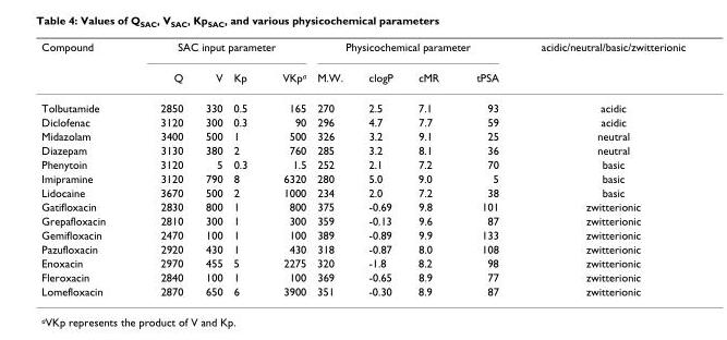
<table><thead><tr><td rowspan="2">Compound</td><td colspan="4">SAC input parameter</td><td colspan="4">Physicochemical parameter</td><td rowspan="2">acidic/neutral/basic/zwitterionic</td></tr><tr><td>Q</td><td>V</td><td>Kp</td><td>VKp<sup>a</sup></td><td>M.W.</td><td>clogP</td><td>cMR</td><td>tPSA</td></tr></thead><tbody><tr><td>Tolbutamide</td><td>2850</td><td>330</td><td>0.5</td><td>165</td><td>270</td><td>2.5</td><td>7.1</td><td>93</td><td>acidic</td></tr><tr><td>Diclofenac</td><td>3120</td><td>300</td><td>0.3</td><td>90</td><td>296</td><td>4.7</td><td>7.7</td><td>59</td><td>acidic</td></tr><tr><td>Midazolam</td><td>3400</td><td>500</td><td>1</td><td>500</td><td>326</td><td>3.2</td><td>9.1</td><td>25</td><td>neutral</td></tr><tr><td>Diazepam</td><td>3130</td><td>380</td><td>2</td><td>760</td><td>285</td><td>3.2</td><td>8.1</td><td>36</td><td>neutral</td></tr><tr><td>Phenytoin</td><td>3120</td><td>5</td><td>0.3</td><td>1.5</td><td>252</td><td>2.1</td><td>7.2</td><td>70</td><td>basic</td></tr><tr><td>Imipramine</td><td>3120</td><td>790</td><td>8</td><td>6320</td><td>280</td><td>5.0</td><td>9.0</td><td>5</td><td>basic</td></tr><tr><td>Lidocaine</td><td>3670</td><td>500</td><td>2</td><td>1000</td><td>234</td><td>2.0</td><td>7.2</td><td>38</td><td>basic</td></tr><tr><td>Gatifloxacin</td><td>2830</td><td>800</td><td>1</td><td>800</td><td>375</td><td>-0.69</td><td>9.8</td><td>101</td><td>zwitterionic</td></tr><tr><td>Grepafloxacin</td><td>2810</td><td>300</td><td>1</td><td>300</td><td>359</td><td>-0.13</td><td>9.6</td><td>87</td><td>zwitterionic</td></tr><tr><td>Gemifloxacin</td><td>2470</td><td>100</td><td>1</td><td>100</td><td>389</td><td>-0.89</td><td>9.9</td><td>133</td><td>zwitterionic</td></tr><tr><td>Pazufloxacin</td><td>2920</td><td>430</td><td>1</td><td>430</td><td>318</td><td>-0.87</td><td>8.0</td><td>108</td><td>zwitterionic</td></tr><tr><td>Enoxacin</td><td>2970</td><td>455</td><td>5</td><td>2275</td><td>320</td><td>-1.8</td><td>8.2</td><td>98</td><td>zwitterionic</td></tr><tr><td>Fleroxacin</td><td>2840</td><td>100</td><td>1</td><td>100</td><td>369</td><td>-0.65</td><td>8.9</td><td>77</td><td>zwitterionic</td></tr><tr><td>Lomefloxacin</td><td>2870</td><td>650</td><td>6</td><td>3900</td><td>351</td><td>-0.30</td><td>8.9</td><td>87</td><td>zwitterionic</td></tr></tbody></table>